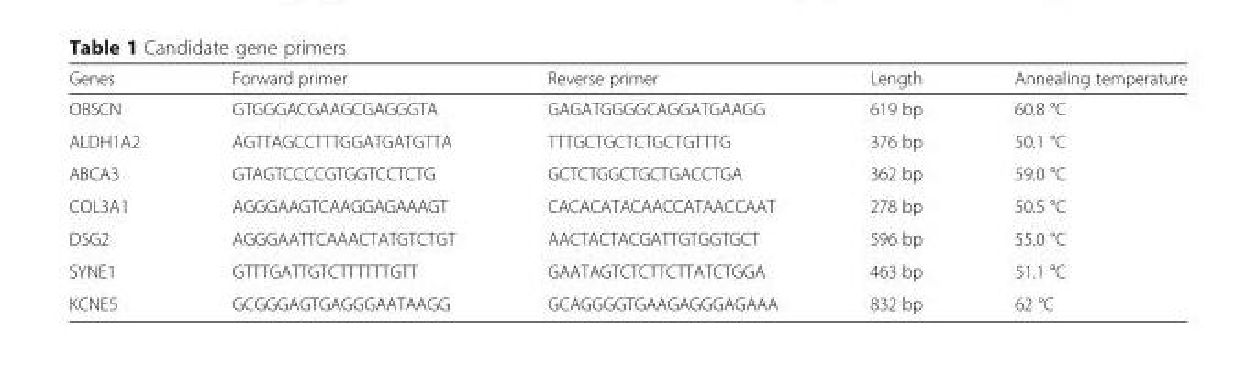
<table><thead><tr><td>Genes</td><td>Forward primer</td><td>Reverse primer</td><td>Length</td><td>Annealing temperature</td></tr></thead><tbody><tr><td>OBSCN</td><td>GTGGGACGAAGCGAGGGTA</td><td>GAGATGGGGCAGGATGAAGG</td><td>619 bp</td><td>60.8 °C</td></tr><tr><td>ALDH1A2</td><td>AGTTAGCCTTTGGATGATGTTA</td><td>TTTGCTGCTCTGCTGTTTG</td><td>376 bp</td><td>50.1 °C</td></tr><tr><td>ABCA3</td><td>GTAGTCCCCGTGGTCCTCTG</td><td>GCTCTGGCTGCTGACCTGA</td><td>362 bp</td><td>59.0 °C</td></tr><tr><td>COL3A1</td><td>AGGGAAGTCAAGGAGAAAGT</td><td>CACACATACAACCATAACCAAT</td><td>278 bp</td><td>50.5 °C</td></tr><tr><td>DSG2</td><td>AGGGAATTCAAACTATGTCTGT</td><td>AACTACTACGATTGTGGTGCT</td><td>596 bp</td><td>55.0 °C</td></tr><tr><td>SYNE1</td><td>GTTTGATTGTCTTTTTTGTT</td><td>GAATAGTCTCTTCTTATCTGGA</td><td>463 bp</td><td>51.1 °C</td></tr><tr><td>KCNE5</td><td>GCGGGAGTGAGGGAATAAGG</td><td>GCAGGGGTGAAGAGGGAGAAA</td><td>832 bp</td><td>62 °C</td></tr></tbody></table>